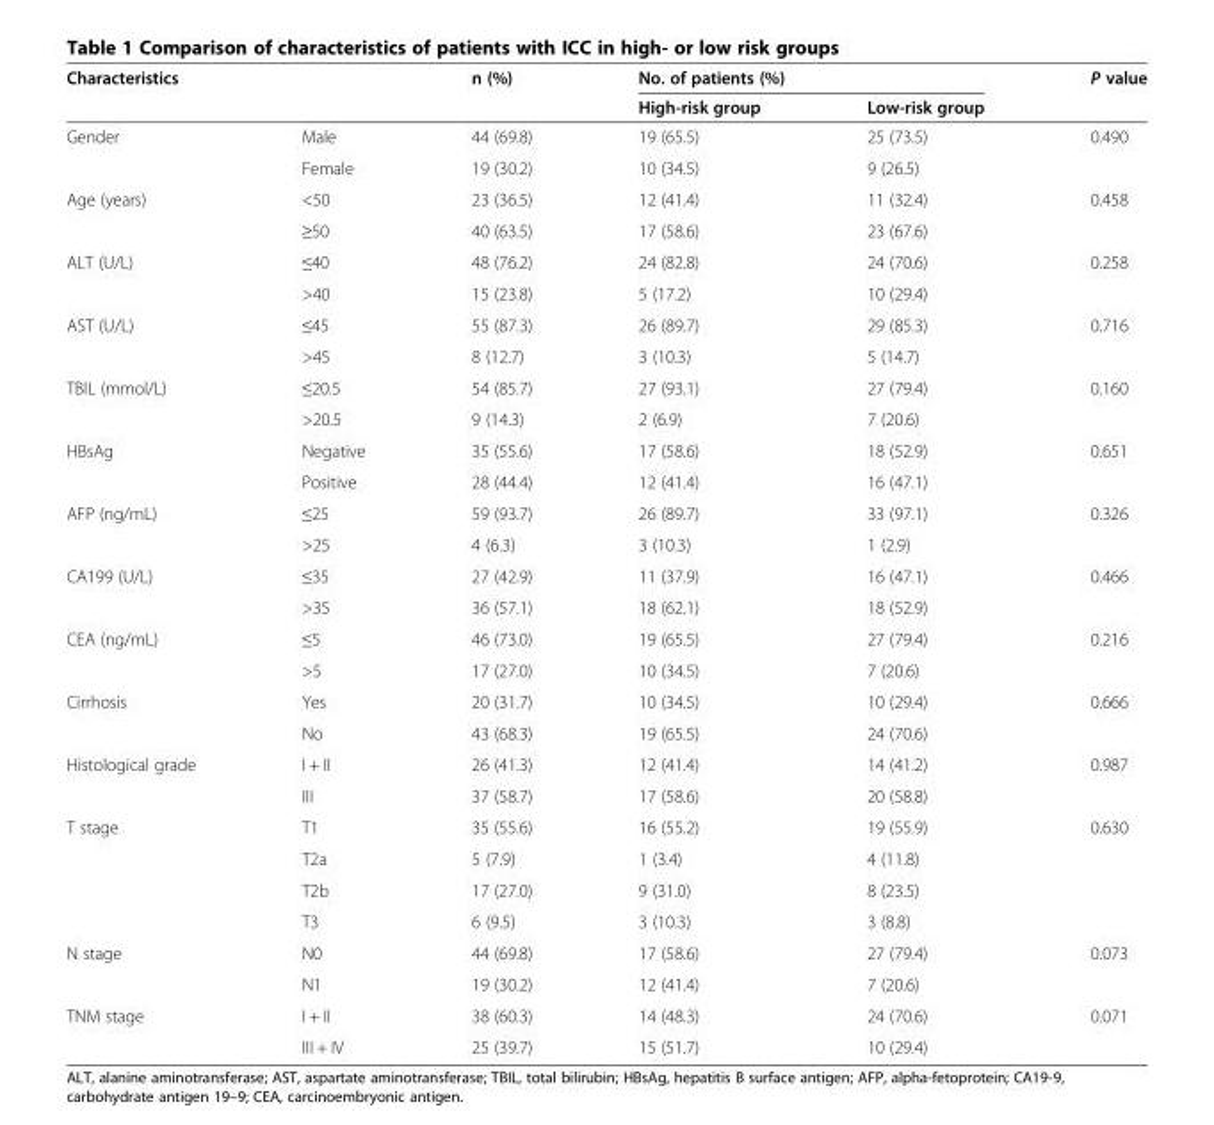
<table><thead><tr><td rowspan="2">Characteristics</td><td rowspan="2"></td><td rowspan="2">n (%)</td><td colspan="2">No. of patients (%)</td><td rowspan="2">P value</td></tr><tr><td>High-risk group</td><td>Low-risk group</td></tr></thead><tbody><tr><td rowspan="2">Gender</td><td>Male</td><td>44 (69.8)</td><td>19 (65.5)</td><td>25 (73.5)</td><td>0.490</td></tr><tr><td>Female</td><td>19 (30.2)</td><td>10 (34.5)</td><td>9 (26.5)</td><td></td></tr><tr><td rowspan="2">Age (years)</td><td>&lt;50</td><td>23 (36.5)</td><td>12 (41.4)</td><td>11 (32.4)</td><td>0.458</td></tr><tr><td>≥50</td><td>40 (63.5)</td><td>17 (58.6)</td><td>23 (67.6)</td><td></td></tr><tr><td rowspan="2">ALT (U/L)</td><td>≤40</td><td>48 (76.2)</td><td>24 (82.8)</td><td>24 (70.6)</td><td>0.258</td></tr><tr><td>&gt;40</td><td>15 (23.8)</td><td>5 (17.2)</td><td>10 (29.4)</td><td></td></tr><tr><td rowspan="2">AST (U/L)</td><td>≤45</td><td>55 (87.3)</td><td>26 (89.7)</td><td>29 (85.3)</td><td>0.716</td></tr><tr><td>&gt;45</td><td>8 (12.7)</td><td>3 (10.3)</td><td>5 (14.7)</td><td></td></tr><tr><td rowspan="2">TBIL (mmol/L)</td><td>≤20.5</td><td>54 (85.7)</td><td>27 (93.1)</td><td>27 (79.4)</td><td>0.160</td></tr><tr><td>&gt;20.5</td><td>9 (14.3)</td><td>2 (6.9)</td><td>7 (20.6)</td><td></td></tr><tr><td rowspan="2">HBsAg</td><td>Negative</td><td>35 (55.6)</td><td>17 (58.6)</td><td>18 (52.9)</td><td>0.651</td></tr><tr><td>Positive</td><td>28 (44.4)</td><td>12 (41.4)</td><td>16 (47.1)</td><td></td></tr><tr><td rowspan="2">AFP (ng/mL)</td><td>≤25</td><td>59 (93.7)</td><td>26 (89.7)</td><td>33 (97.1)</td><td>0.326</td></tr><tr><td>&gt;25</td><td>4 (6.3)</td><td>3 (10.3)</td><td>1 (2.9)</td><td></td></tr><tr><td rowspan="2">CA199 (U/L)</td><td>≤35</td><td>27 (42.9)</td><td>11 (37.9)</td><td>16 (47.1)</td><td>0.466</td></tr><tr><td>&gt;35</td><td>36 (57.1)</td><td>18 (62.1)</td><td>18 (52.9)</td><td></td></tr><tr><td rowspan="2">CEA (ng/mL)</td><td>≤5</td><td>46 (73.0)</td><td>19 (65.5)</td><td>27 (79.4)</td><td>0.216</td></tr><tr><td>&gt;5</td><td>17 (27.0)</td><td>10 (34.5)</td><td>7 (20.6)</td><td></td></tr><tr><td rowspan="2">Cirrhosis</td><td>Yes</td><td>20 (31.7)</td><td>10 (34.5)</td><td>10 (29.4)</td><td>0.666</td></tr><tr><td>No</td><td>43 (68.3)</td><td>19 (65.5)</td><td>24 (70.6)</td><td></td></tr><tr><td rowspan="2">Histological grade</td><td>I + II</td><td>26 (41.3)</td><td>12 (41.4)</td><td>14 (41.2)</td><td>0.987</td></tr><tr><td>III</td><td>37 (58.7)</td><td>17 (58.6)</td><td>20 (58.8)</td><td></td></tr><tr><td rowspan="4">T stage</td><td>T1</td><td>35 (55.6)</td><td>16 (55.2)</td><td>19 (55.9)</td><td>0.630</td></tr><tr><td>T2a</td><td>5 (7.9)</td><td>1 (3.4)</td><td>4 (11.8)</td><td></td></tr><tr><td>T2b</td><td>17 (27.0)</td><td>9 (31.0)</td><td>8 (23.5)</td><td></td></tr><tr><td>T3</td><td>6 (9.5)</td><td>3 (10.3)</td><td>3 (8.8)</td><td></td></tr><tr><td rowspan="2">N stage</td><td>N0</td><td>44 (69.8)</td><td>17 (58.6)</td><td>27 (79.4)</td><td>0.073</td></tr><tr><td>N1</td><td>19 (30.2)</td><td>12 (41.4)</td><td>7 (20.6)</td><td></td></tr><tr><td rowspan="2">TNM stage</td><td>I + II</td><td>38 (60.3)</td><td>14 (48.3)</td><td>24 (70.6)</td><td>0.071</td></tr><tr><td>III + IV</td><td>25 (39.7)</td><td>15 (51.7)</td><td>10 (29.4)</td><td></td></tr></tbody></table>